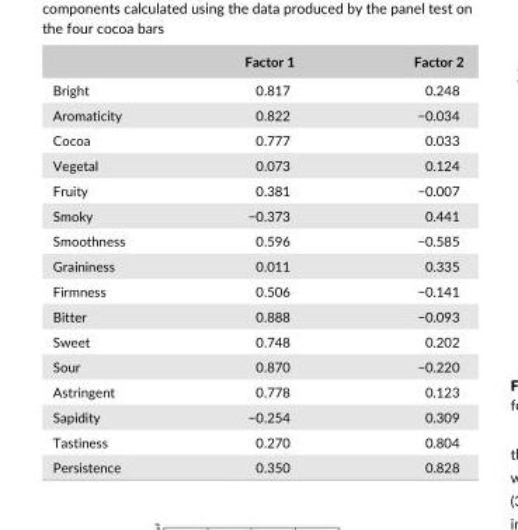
<table><thead><tr><td></td><td>Factor 1</td><td>Factor 2</td></tr></thead><tbody><tr><td>Bright</td><td>0.817</td><td>0.248</td></tr><tr><td>Aromaticity</td><td>0.822</td><td>−0.034</td></tr><tr><td>Cocoa</td><td>0.777</td><td>0.033</td></tr><tr><td>Vegetal</td><td>0.073</td><td>0.124</td></tr><tr><td>Fruity</td><td>0.381</td><td>−0.007</td></tr><tr><td>Smoky</td><td>−0.373</td><td>0.441</td></tr><tr><td>Smoothness</td><td>0.596</td><td>−0.585</td></tr><tr><td>Graininess</td><td>0.011</td><td>0.335</td></tr><tr><td>Firmness</td><td>0.506</td><td>−0.141</td></tr><tr><td>Bitter</td><td>0.888</td><td>−0.093</td></tr><tr><td>Sweet</td><td>0.748</td><td>0.202</td></tr><tr><td>Sour</td><td>0.870</td><td>−0.220</td></tr><tr><td>Astringent</td><td>0.778</td><td>0.123</td></tr><tr><td>Sapidity</td><td>−0.254</td><td>0.309</td></tr><tr><td>Tastiness</td><td>0.270</td><td>0.804</td></tr><tr><td>Persistence</td><td>0.350</td><td>0.828</td></tr></tbody></table>